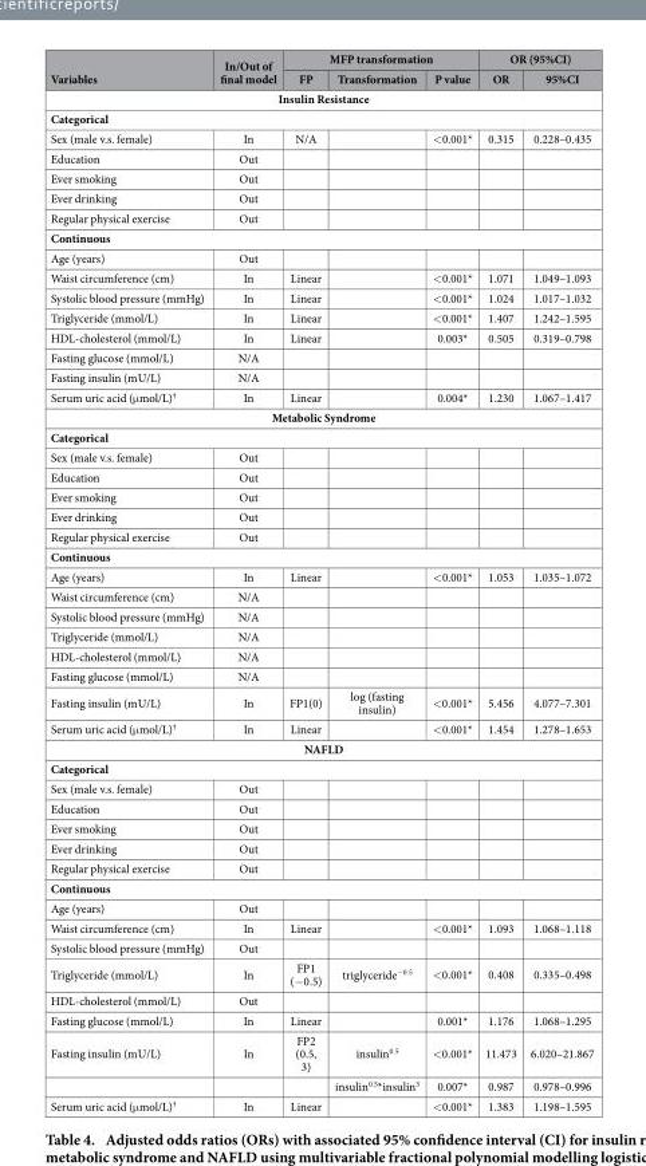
<table><thead><tr><td rowspan="2">Variables</td><td rowspan="2">In/Out of final model</td><td colspan="3">MFP transformation</td><td colspan="2">OR (95%CI)</td></tr><tr><td>FP</td><td>Transformation</td><td>P value</td><td>OR</td><td>95%CI</td></tr><tr><td colspan="7">Insulin Resistance</td></tr></thead><tbody><tr><td colspan="7">Categorical</td></tr><tr><td>Sex (male v.s. female)</td><td>In</td><td>N/A</td><td></td><td>&lt; 0.001*</td><td>0.315</td><td>0.228–0.435</td></tr><tr><td>Education</td><td>Out</td><td></td><td></td><td></td><td></td><td></td></tr><tr><td>Ever smoking</td><td>Out</td><td></td><td></td><td></td><td></td><td></td></tr><tr><td>Ever drinking</td><td>Out</td><td></td><td></td><td></td><td></td><td></td></tr><tr><td>Regular physical exercise</td><td>Out</td><td></td><td></td><td></td><td></td><td></td></tr><tr><td colspan="7">Continuous</td></tr><tr><td>Age (years)</td><td>Out</td><td></td><td></td><td></td><td></td><td></td></tr><tr><td>Waist circumference (cm)</td><td>In</td><td>Linear</td><td></td><td>&lt; 0.001*</td><td>1.071</td><td>1.049–1.093</td></tr><tr><td>Systolic blood pressure (mmHg)</td><td>In</td><td>Linear</td><td></td><td>&lt; 0.001*</td><td>1.024</td><td>1.017–1.032</td></tr><tr><td>Triglyceride (mmol/L)</td><td>In</td><td>Linear</td><td></td><td>&lt; 0.001*</td><td>1.407</td><td>1.242–1.595</td></tr><tr><td>HDL-cholesterol (mmol/L)</td><td>In</td><td>Linear</td><td></td><td>0.003*</td><td>0.505</td><td>0.319–0.798</td></tr><tr><td>Fasting glucose (mmol/L)</td><td>N/A</td><td></td><td></td><td></td><td></td><td></td></tr><tr><td>Fasting insulin (mU/L)</td><td>N/A</td><td></td><td></td><td></td><td></td><td></td></tr><tr><td>Serum uric acid (μ mol/L)†</td><td>In</td><td>Linear</td><td></td><td>0.004*</td><td>1.230</td><td>1.067–1.417</td></tr><tr><td colspan="7">Metabolic Syndrome</td></tr><tr><td colspan="7">Categorical</td></tr><tr><td>Sex (male v.s. female)</td><td>Out</td><td></td><td></td><td></td><td></td><td></td></tr><tr><td>Education</td><td>Out</td><td></td><td></td><td></td><td></td><td></td></tr><tr><td>Ever smoking</td><td>Out</td><td></td><td></td><td></td><td></td><td></td></tr><tr><td>Ever drinking</td><td>Out</td><td></td><td></td><td></td><td></td><td></td></tr><tr><td>Regular physical exercise</td><td>Out</td><td></td><td></td><td></td><td></td><td></td></tr><tr><td colspan="7">Continuous</td></tr><tr><td>Age (years)</td><td>In</td><td>Linear</td><td></td><td>&lt; 0.001*</td><td>1.053</td><td>1.035–1.072</td></tr><tr><td>Waist circumference (cm)</td><td>N/A</td><td></td><td></td><td></td><td></td><td></td></tr><tr><td>Systolic blood pressure (mmHg)</td><td>N/A</td><td></td><td></td><td></td><td></td><td></td></tr><tr><td>Triglyceride (mmol/L)</td><td>N/A</td><td></td><td></td><td></td><td></td><td></td></tr><tr><td>HDL-cholesterol (mmol/L)</td><td>N/A</td><td></td><td></td><td></td><td></td><td></td></tr><tr><td>Fasting glucose (mmol/L)</td><td>N/A</td><td></td><td></td><td></td><td></td><td></td></tr><tr><td>Fasting insulin (mU/L)</td><td>In</td><td>FP1(0)</td><td>log (fasting insulin)</td><td>&lt; 0.001*</td><td>5.456</td><td>4.077–7.301</td></tr><tr><td>Serum uric acid (μ mol/L)†</td><td>In</td><td>Linear</td><td></td><td>&lt; 0.001*</td><td>1.454</td><td>1.278–1.653</td></tr><tr><td colspan="7">NAFLD</td></tr><tr><td colspan="7">Categorical</td></tr><tr><td>Sex (male v.s. female)</td><td>Out</td><td></td><td></td><td></td><td></td><td></td></tr><tr><td>Education</td><td>Out</td><td></td><td></td><td></td><td></td><td></td></tr><tr><td>Ever smoking</td><td>Out</td><td></td><td></td><td></td><td></td><td></td></tr><tr><td>Ever drinking</td><td>Out</td><td></td><td></td><td></td><td></td><td></td></tr><tr><td>Regular physical exercise</td><td>Out</td><td></td><td></td><td></td><td></td><td></td></tr><tr><td colspan="7">Continuous</td></tr><tr><td>Age (years)</td><td>Out</td><td></td><td></td><td></td><td></td><td></td></tr><tr><td>Waist circumference (cm)</td><td>In</td><td>Linear</td><td></td><td>&lt; 0.001*</td><td>1.093</td><td>1.068–1.118</td></tr><tr><td>Systolic blood pressure (mmHg)</td><td>Out</td><td></td><td></td><td></td><td></td><td></td></tr><tr><td>Triglyceride (mmol/L)</td><td>In</td><td>FP1 (− 0.5)</td><td>triglyceride<sup>−0.5</sup></td><td>&lt; 0.001*</td><td>0.408</td><td>0.335–0.498</td></tr><tr><td>HDL-cholesterol (mmol/L)</td><td>Out</td><td></td><td></td><td></td><td></td><td></td></tr><tr><td>Fasting glucose (mmol/L)</td><td>In</td><td>Linear</td><td></td><td>0.001*</td><td>1.176</td><td>1.068–1.295</td></tr><tr><td rowspan="2">Fasting insulin (mU/L)</td><td>In</td><td>FP2 (0.5, 3)</td><td>insulin<sup>0.5</sup></td><td>&lt; 0.001*</td><td>11.473</td><td>6.020–21.867</td></tr><tr><td></td><td></td><td>insulin<sup>0.5</sup>*insulin<sup>3</sup></td><td>0.007*</td><td>0.987</td><td>0.978–0.996</td></tr><tr><td>Serum uric acid (μ mol/L)†</td><td>In</td><td>Linear</td><td></td><td>&lt; 0.001*</td><td>1.383</td><td>1.198–1.595</td></tr></tbody></table>